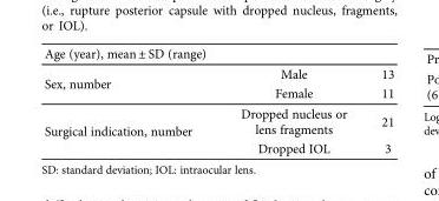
<table><tbody><tr><td colspan="3">Age (year), mean ± SD (range)</td></tr><tr><td rowspan="2">Sex, number</td><td>Male</td><td>13</td></tr><tr><td>Female</td><td>11</td></tr><tr><td rowspan="2">Surgical indication, number</td><td>Dropped nucleus or lens fragments</td><td>21</td></tr><tr><td>Dropped IOL</td><td>3</td></tr></tbody></table>